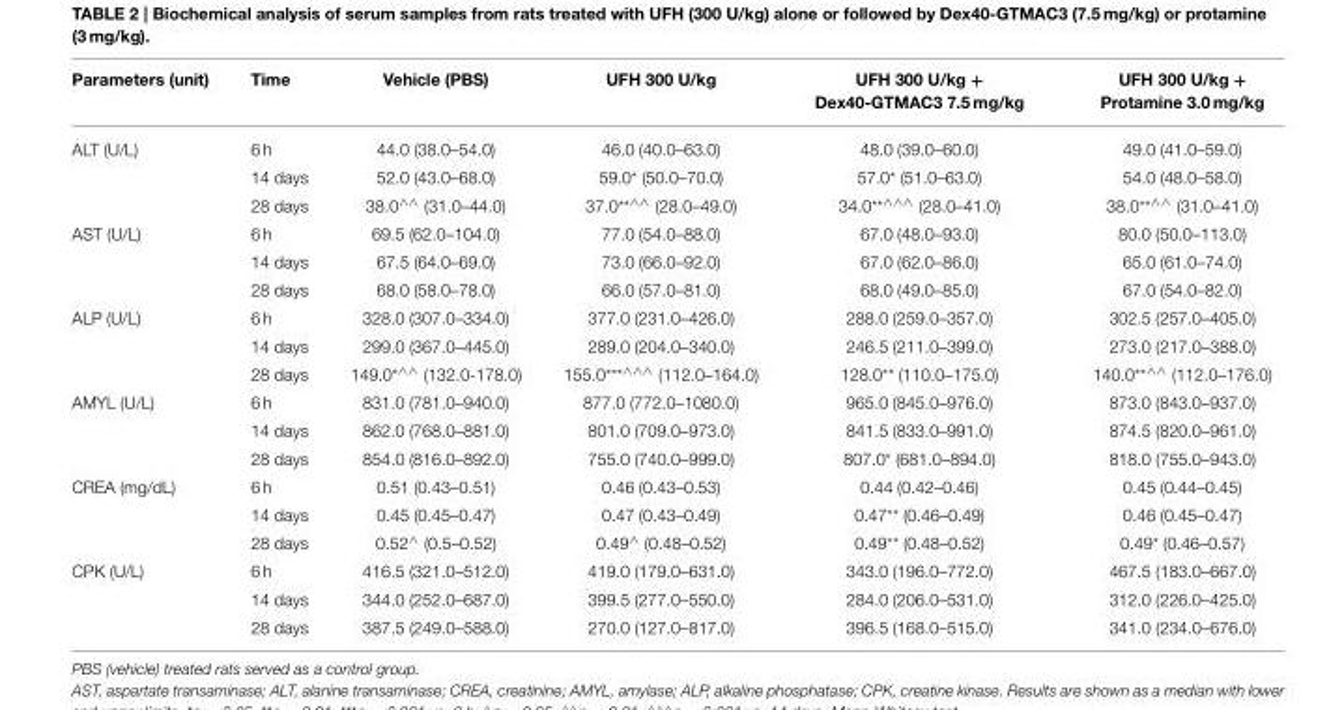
<table><thead><tr><td>Parameters (unit)</td><td>Time</td><td>Vehicle (PBS)</td><td>UFH 300 U/kg</td><td>UFH 300 U/kg + Dex40-GTMAC3 7.5 mg/kg</td><td>UFH 300 U/kg + Protamine 3.0 mg/kg</td></tr></thead><tbody><tr><td rowspan="3">ALT (U/L)</td><td>6 h</td><td>44.0 (38.0–54.0)</td><td>46.0 (40.0–63.0)</td><td>48.0 (39.0–60.0)</td><td>49.0 (41.0–59.0)</td></tr><tr><td>14 days</td><td>52.0 (43.0–68.0)</td><td>59.0* (50.0–70.0)</td><td>57.0* (51.0–63.0)</td><td>54.0 (48.0–58.0)</td></tr><tr><td>28 days</td><td>38.0<sup>∧∧</sup> (31.0–44.0)</td><td>37.0<sup>**∧∧</sup> (28.0–49.0)</td><td>34.0<sup>**∧∧∧</sup> (28.0–41.0)</td><td>38.0<sup>**∧∧</sup> (31.0–41.0)</td></tr><tr><td rowspan="3">AST (U/L)</td><td>6 h</td><td>69.5 (62.0–104.0)</td><td>77.0 (54.0–88.0)</td><td>67.0 (48.0–93.0)</td><td>80.0 (50.0–113.0)</td></tr><tr><td>14 days</td><td>67.5 (64.0–69.0)</td><td>73.0 (66.0–92.0)</td><td>67.0 (62.0–86.0)</td><td>65.0 (61.0–74.0)</td></tr><tr><td>28 days</td><td>68.0 (58.0–78.0)</td><td>66.0 (57.0–81.0)</td><td>68.0 (49.0–85.0)</td><td>67.0 (54.0–82.0)</td></tr><tr><td rowspan="3">ALP (U/L)</td><td>6 h</td><td>328.0 (307.0–334.0)</td><td>377.0 (231.0–426.0)</td><td>288.0 (259.0–357.0)</td><td>302.5 (257.0–405.0)</td></tr><tr><td>14 days</td><td>299.0 (367.0–445.0)</td><td>289.0 (204.0–340.0)</td><td>246.5 (211.0–399.0)</td><td>273.0 (217.0–388.0)</td></tr><tr><td>28 days</td><td>149.0<sup>*∧∧</sup> (132.0-178.0)</td><td>155.0<sup>***∧∧∧</sup> (112.0–164.0)</td><td>128.0** (110.0–175.0)</td><td>140.0<sup>**∧∧</sup> (112.0–176.0)</td></tr><tr><td rowspan="3">AMYL (U/L)</td><td>6 h</td><td>831.0 (781.0–940.0)</td><td>877.0 (772.0–1080.0)</td><td>965.0 (845.0–976.0)</td><td>873.0 (843.0–937.0)</td></tr><tr><td>14 days</td><td>862.0 (768.0–881.0)</td><td>801.0 (709.0–973.0)</td><td>841.5 (833.0–991.0)</td><td>874.5 (820.0–961.0)</td></tr><tr><td>28 days</td><td>854.0 (816.0–892.0)</td><td>755.0 (740.0–999.0)</td><td>807.0* (681.0–894.0)</td><td>818.0 (755.0–943.0)</td></tr><tr><td rowspan="3">CREA (mg/dL)</td><td>6 h</td><td>0.51 (0.43–0.51)</td><td>0.46 (0.43–0.53)</td><td>0.44 (0.42–0.46)</td><td>0.45 (0.44–0.45)</td></tr><tr><td>14 days</td><td>0.45 (0.45–0.47)</td><td>0.47 (0.43–0.49)</td><td>0.47** (0.46–0.49)</td><td>0.46 (0.45–0.47)</td></tr><tr><td>28 days</td><td>0.52<sup>∧</sup> (0.5–0.52)</td><td>0.49<sup>∧</sup> (0.48–0.52)</td><td>0.49** (0.48–0.52)</td><td>0.49* (0.46–0.57)</td></tr><tr><td rowspan="3">CPK (U/L)</td><td>6 h</td><td>416.5 (321.0–512.0)</td><td>419.0 (179.0–631.0)</td><td>343.0 (196.0–772.0)</td><td>467.5 (183.0–667.0)</td></tr><tr><td>14 days</td><td>344.0 (252.0–687.0)</td><td>399.5 (277.0–550.0)</td><td>284.0 (206.0–531.0)</td><td>312.0 (226.0–425.0)</td></tr><tr><td>28 days</td><td>387.5 (249.0–588.0)</td><td>270.0 (127.0–817.0)</td><td>396.5 (168.0–515.0)</td><td>341.0 (234.0–676.0)</td></tr></tbody></table>